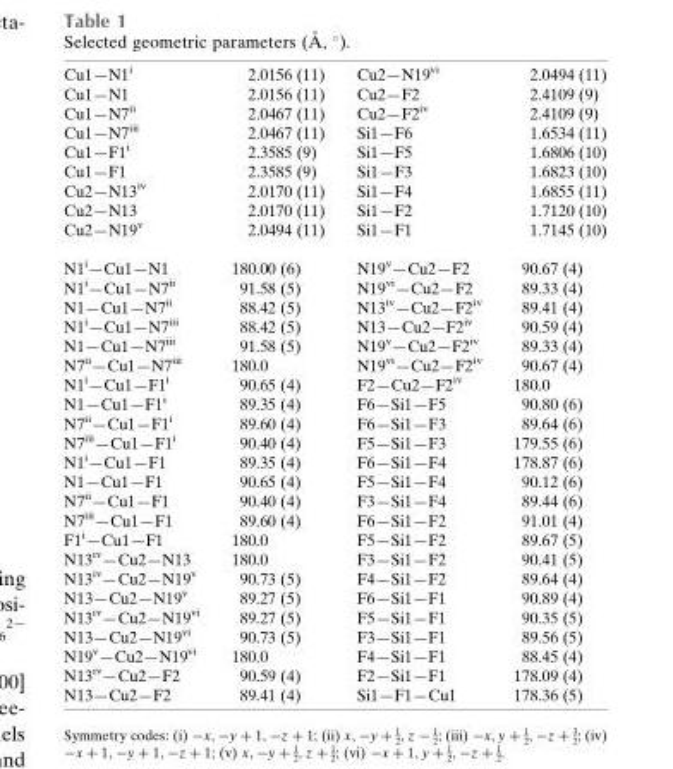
<table><tbody><tr><td>Cu1—N1<sup>i</sup></td><td>2.0156 (11)</td><td>Cu2—N19<sup>vi</sup></td><td>2.0494 (11)</td></tr><tr><td>Cu1—N1</td><td>2.0156 (11)</td><td>Cu2—F2</td><td>2.4109 (9)</td></tr><tr><td>Cu1—N7<sup>ii</sup></td><td>2.0467 (11)</td><td>Cu2—F2<sup>iv</sup></td><td>2.4109 (9)</td></tr><tr><td>Cu1—N7<sup>iii</sup></td><td>2.0467 (11)</td><td>Si1—F6</td><td>1.6534 (11)</td></tr><tr><td>Cu1—F1<sup>i</sup></td><td>2.3585 (9)</td><td>Si1—F5</td><td>1.6806 (10)</td></tr><tr><td>Cu1—F1</td><td>2.3585 (9)</td><td>Si1—F3</td><td>1.6823 (10)</td></tr><tr><td>Cu2—N13<sup>iv</sup></td><td>2.0170 (11)</td><td>Si1—F4</td><td>1.6855 (11)</td></tr><tr><td>Cu2—N13</td><td>2.0170 (11)</td><td>Si1—F2</td><td>1.7120 (10)</td></tr><tr><td>Cu2—N19<sup>v</sup></td><td>2.0494 (11)</td><td>Si1—F1</td><td>1.7145 (10)</td></tr><tr><td>N1<sup>i</sup>—Cu1—N1</td><td>180.00 (6)</td><td>N19<sup>v</sup>—Cu2—F2</td><td>90.67 (4)</td></tr><tr><td>N1<sup>i</sup>—Cu1—N7<sup>ii</sup></td><td>91.58 (5)</td><td>N19<sup>vi</sup>—Cu2—F2</td><td>89.33 (4)</td></tr><tr><td>N1—Cu1—N7<sup>ii</sup></td><td>88.42 (5)</td><td>N13<sup>iv</sup>—Cu2—F2<sup>iv</sup></td><td>89.41 (4)</td></tr><tr><td>N1<sup>i</sup>—Cu1—N7<sup>iii</sup></td><td>88.42 (5)</td><td>N13—Cu2—F2<sup>iv</sup></td><td>90.59 (4)</td></tr><tr><td>N1—Cu1—N7<sup>iii</sup></td><td>91.58 (5)</td><td>N19<sup>v</sup>—Cu2—F2<sup>iv</sup></td><td>89.33 (4)</td></tr><tr><td>N7<sup>ii</sup>—Cu1—N7<sup>iii</sup></td><td>180.0</td><td>N19<sup>vi</sup>—Cu2—F2<sup>iv</sup></td><td>90.67 (4)</td></tr><tr><td>N1<sup>i</sup>—Cu1—F1<sup>i</sup></td><td>90.65 (4)</td><td>F2—Cu2—F2<sup>iv</sup></td><td>180.0</td></tr><tr><td>N1—Cu1—F1<sup>i</sup></td><td>89.35 (4)</td><td>F6—Si1—F5</td><td>90.80 (6)</td></tr><tr><td>N7<sup>ii</sup>—Cu1—F1<sup>i</sup></td><td>89.60 (4)</td><td>F6—Si1—F3</td><td>89.64 (6)</td></tr><tr><td>N7<sup>iii</sup>—Cu1—F1<sup>i</sup></td><td>90.40 (4)</td><td>F5—Si1—F3</td><td>179.55 (6)</td></tr><tr><td>N1<sup>i</sup>—Cu1—F1</td><td>89.35 (4)</td><td>F6—Si1—F4</td><td>178.87 (6)</td></tr><tr><td>N1—Cu1—F1</td><td>90.65 (4)</td><td>F5—Si1—F4</td><td>90.12 (6)</td></tr><tr><td>N7<sup>ii</sup>—Cu1—F1</td><td>90.40 (4)</td><td>F3—Si1—F4</td><td>89.44 (6)</td></tr><tr><td>N7<sup>iii</sup>—Cu1—F1</td><td>89.60 (4)</td><td>F6—Si1—F2</td><td>91.01 (4)</td></tr><tr><td>F1<sup>i</sup>—Cu1—F1</td><td>180.0</td><td>F5—Si1—F2</td><td>89.67 (5)</td></tr><tr><td>N13<sup>iv</sup>—Cu2—N13</td><td>180.0</td><td>F3—Si1—F2</td><td>90.41 (5)</td></tr><tr><td>N13<sup>iv</sup>—Cu2—N19<sup>v</sup></td><td>90.73 (5)</td><td>F4—Si1—F2</td><td>89.64 (4)</td></tr><tr><td>N13—Cu2—N19<sup>v</sup></td><td>89.27 (5)</td><td>F6—Si1—F1</td><td>90.89 (4)</td></tr><tr><td>N13<sup>iv</sup>—Cu2—N19<sup>vi</sup></td><td>89.27 (5)</td><td>F5—Si1—F1</td><td>90.35 (5)</td></tr><tr><td>N13—Cu2—N19<sup>vi</sup></td><td>90.73 (5)</td><td>F3—Si1—F1</td><td>89.56 (5)</td></tr><tr><td>N19<sup>v</sup>—Cu2—N19<sup>vi</sup></td><td>180.0</td><td>F4—Si1—F1</td><td>88.45 (4)</td></tr><tr><td>N13<sup>iv</sup>—Cu2—F2</td><td>90.59 (4)</td><td>F2—Si1—F1</td><td>178.09 (4)</td></tr><tr><td>N13—Cu2—F2</td><td>89.41 (4)</td><td>Si1—F1—Cu1</td><td>178.36 (5)</td></tr></tbody></table>